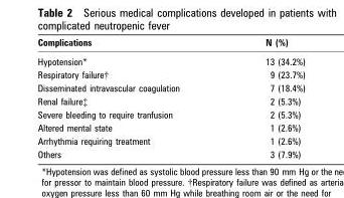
<table><thead><tr><td>Complications</td><td>N (%)</td></tr></thead><tbody><tr><td>Hypotension*</td><td>13 (34.2%)</td></tr><tr><td>Respiratory failure†</td><td>9 (23.7%)</td></tr><tr><td>Disseminated intravascular coagulation</td><td>7 (18.4%)</td></tr><tr><td>Renal failure‡</td><td>2 (5.3%)</td></tr><tr><td>Severe bleeding to require tranfusion</td><td>2 (5.3%)</td></tr><tr><td>Altered mental state</td><td>1 (2.6%)</td></tr><tr><td>Arrhythmia requiring treatment</td><td>1 (2.6%)</td></tr><tr><td>Others</td><td>3 (7.9%)</td></tr></tbody></table>